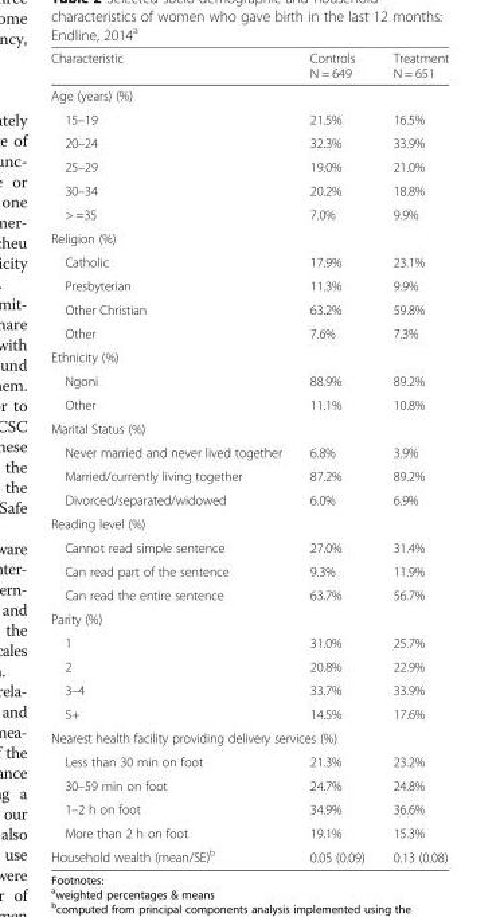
<table><thead><tr><td>Characteristic</td><td>Controls N = 649</td><td>Treatment N = 651</td></tr></thead><tbody><tr><td colspan="3">Age (years) (%)</td></tr><tr><td>15–19</td><td>21.5%</td><td>16.5%</td></tr><tr><td>20–24</td><td>32.3%</td><td>33.9%</td></tr><tr><td>25–29</td><td>19.0%</td><td>21.0%</td></tr><tr><td>30–34</td><td>20.2%</td><td>18.8%</td></tr><tr><td>&gt; =35</td><td>7.0%</td><td>9.9%</td></tr><tr><td colspan="3">Religion (%)</td></tr><tr><td>Catholic</td><td>17.9%</td><td>23.1%</td></tr><tr><td>Presbyterian</td><td>11.3%</td><td>9.9%</td></tr><tr><td>Other Christian</td><td>63.2%</td><td>59.8%</td></tr><tr><td>Other</td><td>7.6%</td><td>7.3%</td></tr><tr><td colspan="3">Ethnicity (%)</td></tr><tr><td>Ngoni</td><td>88.9%</td><td>89.2%</td></tr><tr><td>Other</td><td>11.1%</td><td>10.8%</td></tr><tr><td colspan="3">Marital Status (%)</td></tr><tr><td>Never married and never lived together</td><td>6.8%</td><td>3.9%</td></tr><tr><td>Married/currently living together</td><td>87.2%</td><td>89.2%</td></tr><tr><td>Divorced/separated/widowed</td><td>6.0%</td><td>6.9%</td></tr><tr><td colspan="3">Reading level (%)</td></tr><tr><td>Cannot read simple sentence</td><td>27.0%</td><td>31.4%</td></tr><tr><td>Can read part of the sentence</td><td>9.3%</td><td>11.9%</td></tr><tr><td>Can read the entire sentence</td><td>63.7%</td><td>56.7%</td></tr><tr><td colspan="3">Parity (%)</td></tr><tr><td>1</td><td>31.0%</td><td>25.7%</td></tr><tr><td>2</td><td>20.8%</td><td>22.9%</td></tr><tr><td>3–4</td><td>33.7%</td><td>33.9%</td></tr><tr><td>5+</td><td>14.5%</td><td>17.6%</td></tr><tr><td colspan="3">Nearest health facility providing delivery services (%)</td></tr><tr><td>Less than 30 min on foot</td><td>21.3%</td><td>23.2%</td></tr><tr><td>30–59 min on foot</td><td>24.7%</td><td>24.8%</td></tr><tr><td>1–2 h on foot</td><td>34.9%</td><td>36.6%</td></tr><tr><td>More than 2 h on foot</td><td>19.1%</td><td>15.3%</td></tr><tr><td>Household wealth (mean/SE)<sup>b</sup></td><td>0.05 (0.09)</td><td>0.13 (0.08)</td></tr></tbody></table>